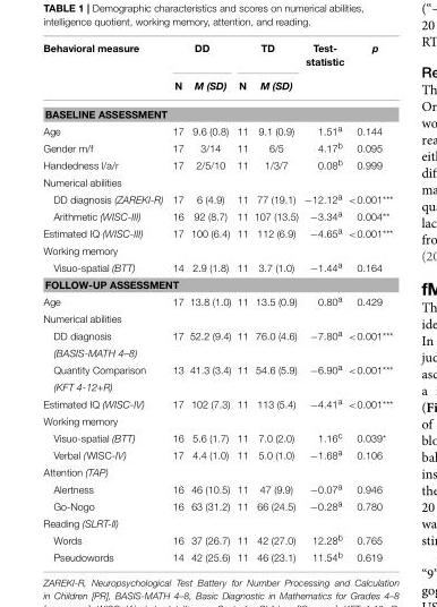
<table><thead><tr><td rowspan="2">Behavioral measure</td><td colspan="2">DD</td><td colspan="2">TD</td><td rowspan="2">Test- statistic</td><td rowspan="2">p</td></tr><tr><td>N</td><td>M (SD)</td><td>N</td><td>M (SD)</td></tr></thead><tbody><tr><td colspan="7">BASELINE ASSESSMENT</td></tr><tr><td>Age</td><td>17</td><td>9.6 (0.8)</td><td>11</td><td>9.1 (0.9)</td><td>1.51<sup>a</sup></td><td>0.144</td></tr><tr><td>Gender m/f</td><td>17</td><td>3/14</td><td>11</td><td>6/5</td><td>4.17<sup>b</sup></td><td>0.095</td></tr><tr><td>Handedness l/a/r</td><td>17</td><td>2/5/10</td><td>11</td><td>1/3/7</td><td>0.08<sup>b</sup></td><td>0.999</td></tr><tr><td colspan="7">Numerical abilities</td></tr><tr><td>DD diagnosis (ZAREKI-R)</td><td>17</td><td>6 (4.9)</td><td>11</td><td>77 (19.1)</td><td>−12.12<sup>a</sup></td><td>&lt;0.001***</td></tr><tr><td>Arithmetic (WISC-III)</td><td>16</td><td>92 (8.7)</td><td>11</td><td>107 (13.5)</td><td>−3.34<sup>a</sup></td><td>0.004**</td></tr><tr><td>Estimated IQ (WISC-III)</td><td>17</td><td>100 (6.4)</td><td>11</td><td>112 (6.9)</td><td>−4.65<sup>a</sup></td><td>&lt;0.001***</td></tr><tr><td colspan="7">Working memory</td></tr><tr><td>Visuo-spatial (BTT)</td><td>14</td><td>2.9 (1.8)</td><td>11</td><td>3.7 (1.0)</td><td>−1.44<sup>a</sup></td><td>0.164</td></tr><tr><td colspan="7">FOLLOW-UP ASSESSMENT</td></tr><tr><td>Age</td><td>17</td><td>13.8 (1.0)</td><td>11</td><td>13.5 (0.9)</td><td>0.80<sup>a</sup></td><td>0.429</td></tr><tr><td colspan="7">Numerical abilities</td></tr><tr><td>DD diagnosis</td><td>17</td><td>52.2 (9.4)</td><td>11</td><td>76.0 (4.6)</td><td>−7.80<sup>a</sup></td><td>&lt;0.001***</td></tr><tr><td colspan="7">(BASIS-MATH 4–8)</td></tr><tr><td>Quantity Comparison</td><td>13</td><td>41.3 (3.4)</td><td>11</td><td>54.6 (5.9)</td><td>−6.90<sup>a</sup></td><td>&lt;0.001***</td></tr><tr><td colspan="7">(KFT 4-12+R)</td></tr><tr><td>Estimated IQ (WISC-IV)</td><td>17</td><td>102 (7.3)</td><td>11</td><td>113 (5.4)</td><td>−4.41<sup>a</sup></td><td>&lt;0.001***</td></tr><tr><td colspan="7">Working memory</td></tr><tr><td>Visuo-spatial (BTT)</td><td>16</td><td>5.6 (1.7)</td><td>11</td><td>7.0 (2.0)</td><td>1.16<sup>c</sup></td><td>0.039*</td></tr><tr><td>Verbal (WISC-IV)</td><td>17</td><td>4.4 (1.0)</td><td>11</td><td>5.0 (1.0)</td><td>−1.68<sup>a</sup></td><td>0.106</td></tr><tr><td colspan="7">Attention (TAP)</td></tr><tr><td>Alertness</td><td>16</td><td>46 (10.5)</td><td>11</td><td>47 (9.9)</td><td>−0.07<sup>a</sup></td><td>0.946</td></tr><tr><td>Go-Nogo</td><td>16</td><td>63 (31.2)</td><td>11</td><td>66 (24.5)</td><td>−0.28<sup>a</sup></td><td>0.780</td></tr><tr><td colspan="7">Reading (SLRT-II)</td></tr><tr><td>Words</td><td>16</td><td>37 (26.7)</td><td>11</td><td>42 (27.0)</td><td>12.28<sup>b</sup></td><td>0.765</td></tr><tr><td>Pseudowords</td><td>14</td><td>42 (25.6)</td><td>11</td><td>46 (23.1)</td><td>11.54<sup>b</sup></td><td>0.619</td></tr></tbody></table>